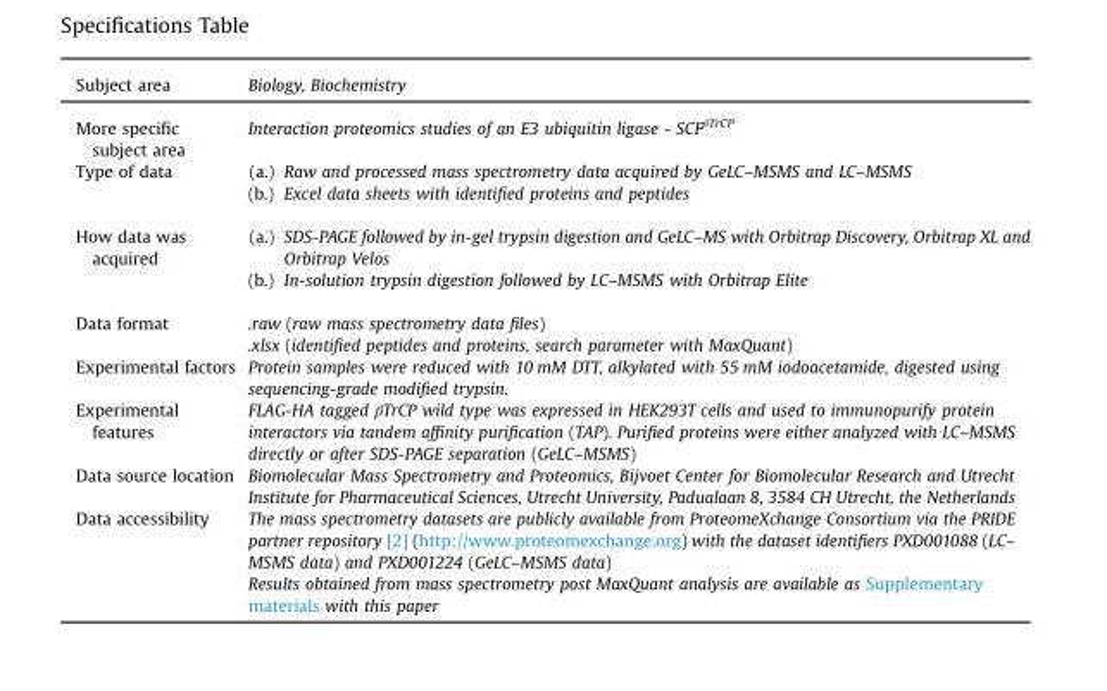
<table><thead><tr><td>Subject area</td><td>Biology, Biochemistry</td></tr></thead><tbody><tr><td>More specific subject area</td><td>Interaction proteomics studies of an E3 ubiquitin ligase - SCF<sup>βTrCP</sup></td></tr><tr><td>Type of data</td><td>(a.) Raw and processed mass spectrometry data acquired by GeLC–MSMS and LC–MSMS (b.) Excel data sheets with identified proteins and peptides</td></tr><tr><td>How data was acquired</td><td>(a.) SDS-PAGE followed by in-gel trypsin digestion and GeLC–MS with Orbitrap Discovery, Orbitrap XL and Orbitrap Velos (b.) In-solution trypsin digestion followed by LC–MSMS with Orbitrap Elite</td></tr><tr><td rowspan="2">Data format</td><td>.raw (raw mass spectrometry data files)</td></tr><tr><td>.xlsx (identified peptides and proteins, search parameter with MaxQuant)</td></tr><tr><td>Experimental factors</td><td>Protein samples were reduced with 10 mM DTT, alkylated with 55 mM iodoacetamide, digested using sequencing-grade modified trypsin.</td></tr><tr><td>Experimental features</td><td>FLAG-HA tagged βTrCP wild type was expressed in HEK293T cells and used to immunopurify protein interactors via tandem affinity purification (TAP). Purified proteins were either analyzed with LC–MSMS directly or after SDS-PAGE separation (GeLC–MSMS)</td></tr><tr><td>Data source location</td><td>Biomolecular Mass Spectrometry and Proteomics, Bijvoet Center for Biomolecular Research and Utrecht Institute for Pharmaceutical Sciences, Utrecht University, Padualaan 8, 3584 CH Utrecht, the Netherlands</td></tr><tr><td rowspan="2">Data accessibility</td><td>The mass spectrometry datasets are publicly available from ProteomeXchange Consortium via the PRIDE partner repository [2] (http://www.proteomexchange.org) with the dataset identifiers PXD001088 (LC– MSMS data) and PXD001224 (GeLC–MSMS data)</td></tr><tr><td>Results obtained from mass spectrometry post MaxQuant analysis are available as Supplementary materials with this paper</td></tr></tbody></table>